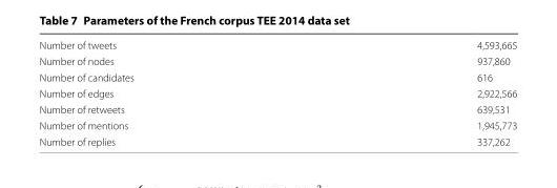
<table><tbody><tr><td>Number of tweets</td><td>4,593,665</td></tr><tr><td>Number of nodes</td><td>937,860</td></tr><tr><td>Number of candidates</td><td>616</td></tr><tr><td>Number of edges</td><td>2,922,566</td></tr><tr><td>Number of retweets</td><td>639,531</td></tr><tr><td>Number of mentions</td><td>1,945,773</td></tr><tr><td>Number of replies</td><td>337,262</td></tr></tbody></table>